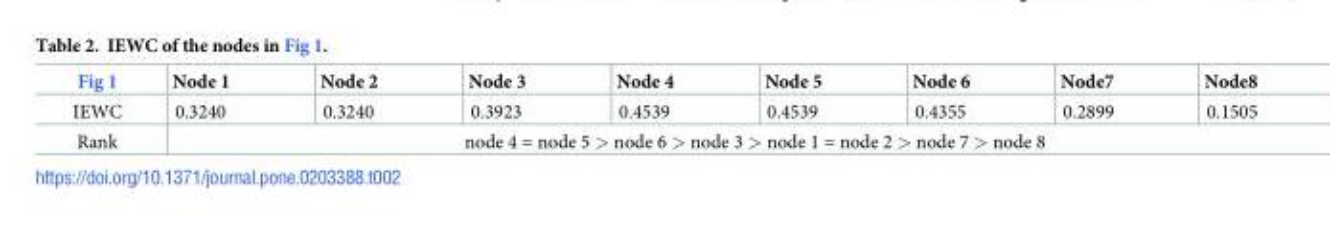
<table><thead><tr><td>Fig 1</td><td>Node 1</td><td>Node 2</td><td>Node 3</td><td>Node 4</td><td>Node 5</td><td>Node 6</td><td>Node7</td><td>Node8</td></tr></thead><tbody><tr><td>IEWC</td><td>0.3240</td><td>0.3240</td><td>0.3923</td><td>0.4539</td><td>0.4539</td><td>0.4355</td><td>0.2899</td><td>0.1505</td></tr><tr><td>Rank</td><td colspan="8">node 4 = node 5 &gt; node 6 &gt; node 3 &gt; node 1 = node 2 &gt; node 7 &gt; node 8</td></tr></tbody></table>